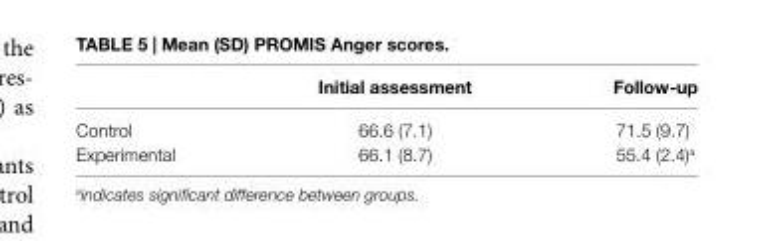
<table><thead><tr><td></td><td>initial assessment</td><td>Follow-up</td></tr></thead><tbody><tr><td>Control</td><td>66.6 (7.1)</td><td>71.5 (9.7)</td></tr><tr><td>Experimental</td><td>66.1 (8.7)</td><td>55.4 (2.4)<sup>a</sup></td></tr></tbody></table>